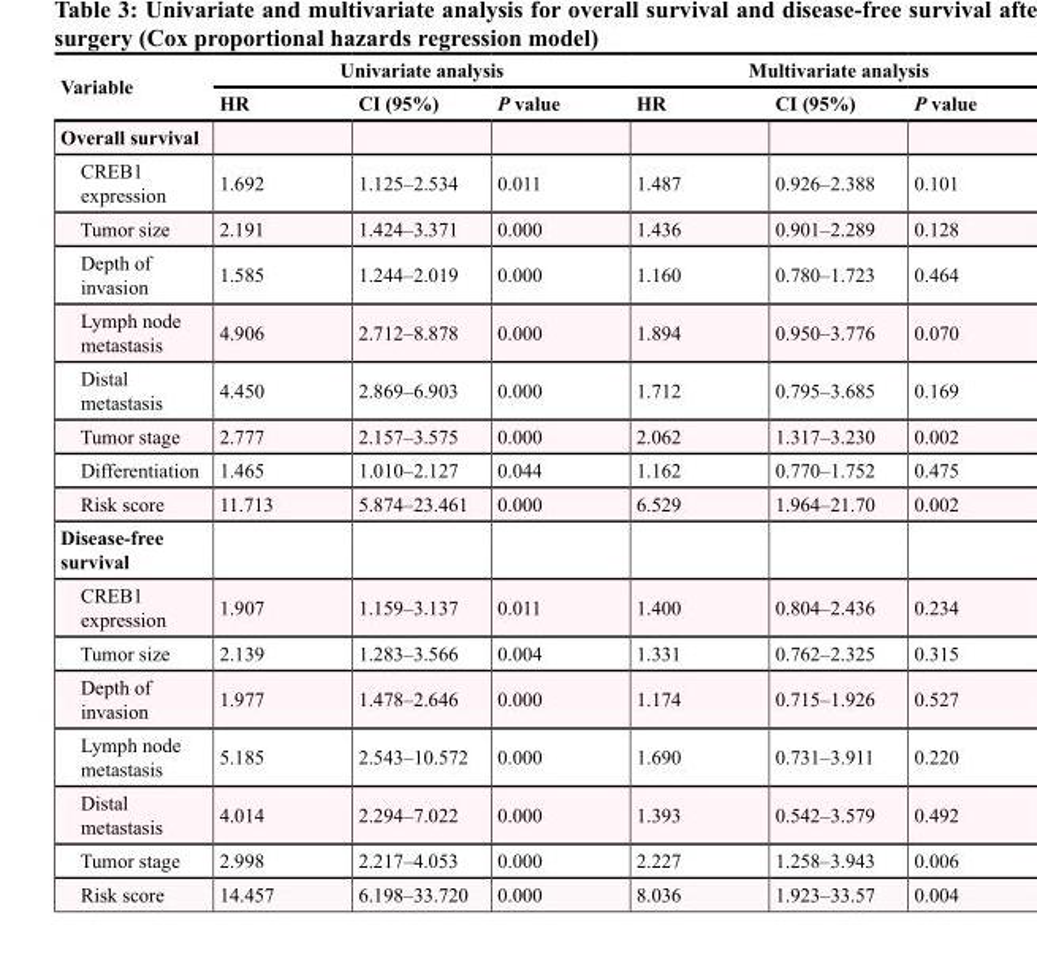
<table><thead><tr><td rowspan="2">Variable</td><td colspan="3">Univariate analysis</td><td colspan="3">Multivariate analysis</td></tr><tr><td>HR</td><td>CI (95%)</td><td>P value</td><td>HR</td><td>CI (95%)</td><td>P value</td></tr></thead><tbody><tr><td colspan="7">Overall survival</td></tr><tr><td>CREB1 expression</td><td>1.692</td><td>1.125–2.534</td><td>0.011</td><td>1.487</td><td>0.926–2.388</td><td>0.101</td></tr><tr><td>Tumor size</td><td>2.191</td><td>1.424–3.371</td><td>0.000</td><td>1.436</td><td>0.901–2.289</td><td>0.128</td></tr><tr><td>Depth of invasion</td><td>1.585</td><td>1.244–2.019</td><td>0.000</td><td>1.160</td><td>0.780–1.723</td><td>0.464</td></tr><tr><td>Lymph node metastasis</td><td>4.906</td><td>2.712–8.878</td><td>0.000</td><td>1.894</td><td>0.950–3.776</td><td>0.070</td></tr><tr><td>Distal metastasis</td><td>4.450</td><td>2.869–6.903</td><td>0.000</td><td>1.712</td><td>0.795–3.685</td><td>0.169</td></tr><tr><td>Tumor stage</td><td>2.777</td><td>2.157–3.575</td><td>0.000</td><td>2.062</td><td>1.317–3.230</td><td>0.002</td></tr><tr><td>Differentiation</td><td>1.465</td><td>1.010–2.127</td><td>0.044</td><td>1.162</td><td>0.770–1.752</td><td>0.475</td></tr><tr><td>Risk score</td><td>11.713</td><td>5.874–23.461</td><td>0.000</td><td>6.529</td><td>1.964–21.70</td><td>0.002</td></tr><tr><td colspan="7">Disease-free survival</td></tr><tr><td>CREB1 expression</td><td>1.907</td><td>1.159–3.137</td><td>0.011</td><td>1.400</td><td>0.804–2.436</td><td>0.234</td></tr><tr><td>Tumor size</td><td>2.139</td><td>1.283–3.566</td><td>0.004</td><td>1.331</td><td>0.762–2.325</td><td>0.315</td></tr><tr><td>Depth of invasion</td><td>1.977</td><td>1.478–2.646</td><td>0.000</td><td>1.174</td><td>0.715–1.926</td><td>0.527</td></tr><tr><td>Lymph node metastasis</td><td>5.185</td><td>2.543–10.572</td><td>0.000</td><td>1.690</td><td>0.731–3.911</td><td>0.220</td></tr><tr><td>Distal metastasis</td><td>4.014</td><td>2.294–7.022</td><td>0.000</td><td>1.393</td><td>0.542–3.579</td><td>0.492</td></tr><tr><td>Tumor stage</td><td>2.998</td><td>2.217–4.053</td><td>0.000</td><td>2.227</td><td>1.258–3.943</td><td>0.006</td></tr><tr><td>Risk score</td><td>14.457</td><td>6.198–33.720</td><td>0.000</td><td>8.036</td><td>1.923–33.57</td><td>0.004</td></tr></tbody></table>